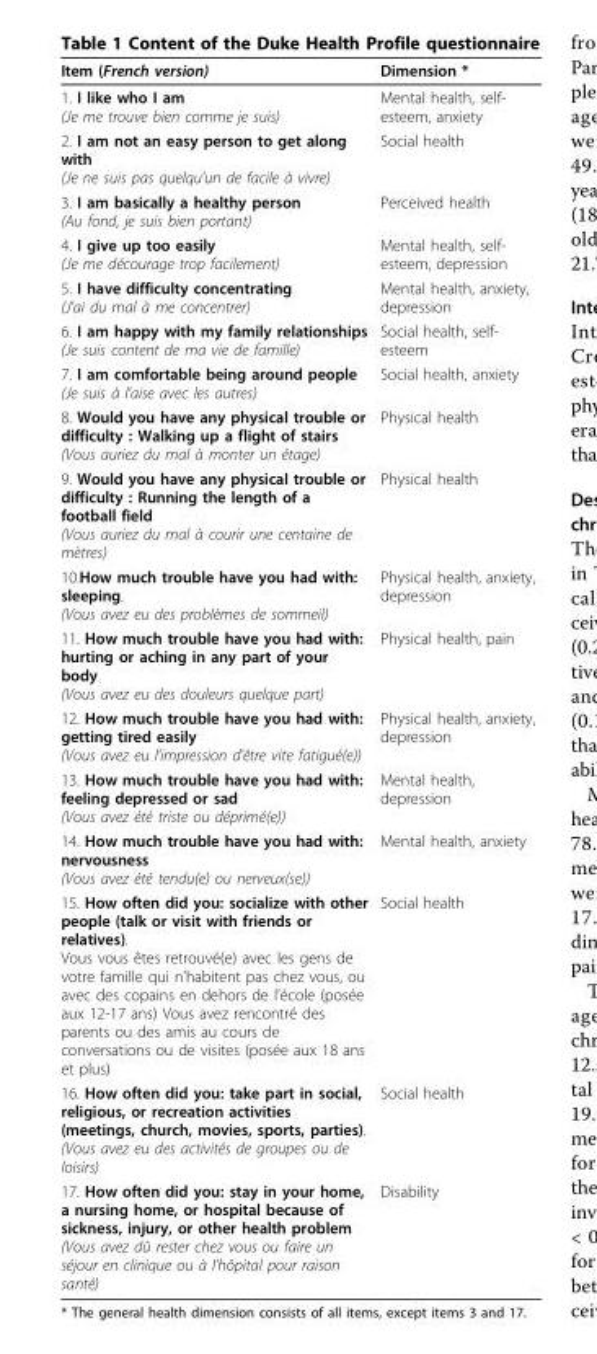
<table><thead><tr><td>Item (French version)</td><td>Dimension *</td></tr></thead><tbody><tr><td>1. I like who I am (Je me trouve bien comme je suis)</td><td>Mental health, self- esteem, anxiety</td></tr><tr><td>2. I am not an easy person to get along with (Je ne suis pas quelqu’un de facile à vivre)</td><td>Social health</td></tr><tr><td>3. I am basically a healthy person (Au fond, je suis bien portant)</td><td>Perceived health</td></tr><tr><td>4. I give up too easily (Je me décourage trop facilement)</td><td>Mental health, self- esteem, depression</td></tr><tr><td>5. I have difficulty concentrating (J’ai du mal à me concentrer)</td><td>Mental health, anxiety, depression</td></tr><tr><td>6. I am happy with my family relationships (Je suis content de ma vie de famille)</td><td>Social health, self- esteem</td></tr><tr><td>7. I am comfortable being around people (Je suis à l’aise avec les autres)</td><td>Social health, anxiety</td></tr><tr><td>8. Would you have any physical trouble or difficulty : Walking up a flight of stairs (Vous auriez du mal à monter un étage)</td><td>Physical health</td></tr><tr><td>9. Would you have any physical trouble or difficulty : Running the length of a football field (Vous auriez du mal à courir une centaine de mètres)</td><td>Physical health</td></tr><tr><td>10.How much trouble have you had with: sleeping. (Vous avez eu des problèmes de sommeil)</td><td>Physical health, anxiety, depression</td></tr><tr><td>11. How much trouble have you had with: hurting or aching in any part of your body (Vous avez eu des douleurs quelque part)</td><td>Physical health, pain</td></tr><tr><td>12. How much trouble have you had with: getting tired easily (Vous avez eu l’impression d’être vite fatigué(e))</td><td>Physical health, anxiety, depression</td></tr><tr><td>13. How much trouble have you had with: feeling depressed or sad (Vous avez été triste ou déprimé(e))</td><td>Mental health, depression</td></tr><tr><td>14. How much trouble have you had with: nervousness (Vous avez été tendu(e) ou nerveux(se))</td><td>Mental health, anxiety</td></tr><tr><td>15. How often did you: socialize with other people (talk or visit with friends or relatives). Vous vous êtes retrouvé(e) avec les gens de votre famille qui n’habitent pas chez vous, ou avec des copains en dehors de l’école (posée aux 12-17 ans) Vous avez rencontré des parents ou des amis au cours de conversations ou de visites (posée aux 18 ans et plus)</td><td>Social health</td></tr><tr><td>16. How often did you: take part in social, religious, or recreation activities (meetings, church, movies, sports, parties). (Vous avez eu des activités de groupes ou de loisirs)</td><td>Social health</td></tr><tr><td>17. How often did you: stay in your home, a nursing home, or hospital because of sickness, injury, or other health problem (Vous avez dû rester chez vous ou faire un séjour en clinique ou à l’hôpital pour raison santé)</td><td>Disability</td></tr></tbody></table>